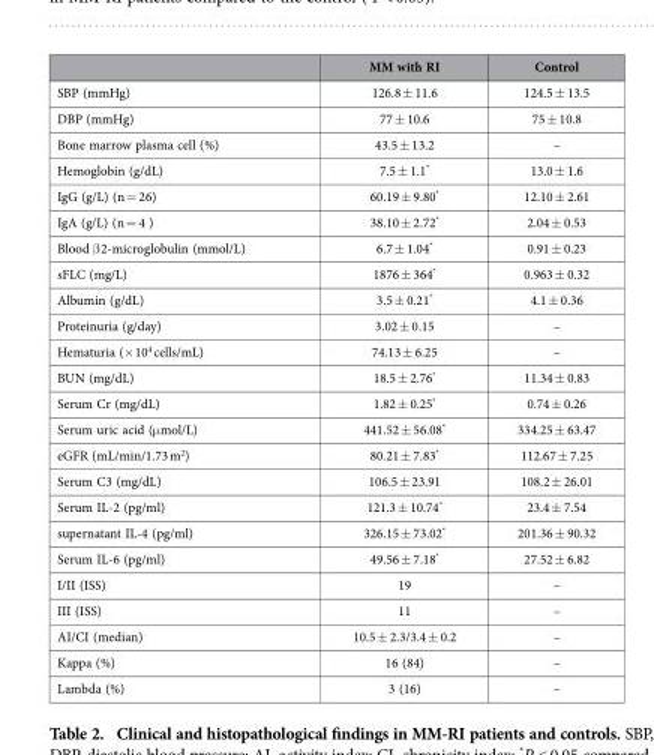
<table><thead><tr><td></td><td>MM with RI</td><td>Control</td></tr></thead><tbody><tr><td>SBP (mmHg)</td><td>126.8 ± 11.6</td><td>124.5 ± 13.5</td></tr><tr><td>DBP (mmHg)</td><td>77 ± 10.6</td><td>75 ± 10.8</td></tr><tr><td>Bone marrow plasma cell (%)</td><td>43.5 ± 13.2</td><td>–</td></tr><tr><td>Hemoglobin (g/dL)</td><td>7.5 ± 1.1*</td><td>13.0 ± 1.6</td></tr><tr><td>IgG (g/L) (n = 26)</td><td>60.19 ± 9.80*</td><td>12.10 ± 2.61</td></tr><tr><td>IgA (g/L) (n = 4 )</td><td>38.10 ± 2.72*</td><td>2.04 ± 0.53</td></tr><tr><td>Blood β 2-microglobulin (mmol/L)</td><td>6.7 ± 1.04*</td><td>0.91 ± 0.23</td></tr><tr><td>sFLC (mg/L)</td><td>1876 ± 364*</td><td>0.963 ± 0.32</td></tr><tr><td>Albumin (g/dL)</td><td>3.5 ± 0.21*</td><td>4.1 ± 0.36</td></tr><tr><td>Proteinuria (g/day)</td><td>3.02 ± 0.15</td><td>–</td></tr><tr><td>Hematuria (× 10<sup>4</sup> cells/mL)</td><td>74.13 ± 6.25</td><td>–</td></tr><tr><td>BUN (mg/dL)</td><td>18.5 ± 2.76*</td><td>11.34 ± 0.83</td></tr><tr><td>Serum Cr (mg/dL)</td><td>1.82 ± 0.25*</td><td>0.74 ± 0.26</td></tr><tr><td>Serum uric acid (μ mol/L)</td><td>441.52 ± 56.08*</td><td>334.25 ± 63.47</td></tr><tr><td>eGFR (mL/min/1.73 m<sup>2</sup>)</td><td>80.21 ± 7.83*</td><td>112.67 ± 7.25</td></tr><tr><td>Serum C3 (mg/dL)</td><td>106.5 ± 23.91</td><td>108.2 ± 26.01</td></tr><tr><td>Serum IL-2 (pg/ml)</td><td>121.3 ± 10.74*</td><td>23.4 ± 7.54</td></tr><tr><td>supernatant IL-4 (pg/ml)</td><td>326.15 ± 73.02*</td><td>201.36 ± 90.32</td></tr><tr><td>Serum IL-6 (pg/ml)</td><td>49.56 ± 7.18*</td><td>27.52 ± 6.82</td></tr><tr><td>I/II (ISS)</td><td>19</td><td>–</td></tr><tr><td>III (ISS)</td><td>11</td><td>–</td></tr><tr><td>AI/CI (median)</td><td>10.5 ± 2.3/3.4 ± 0.2</td><td>–</td></tr><tr><td>Kappa (%)</td><td>16 (84)</td><td>–</td></tr><tr><td>Lambda (%)</td><td>3 (16)</td><td>–</td></tr></tbody></table>